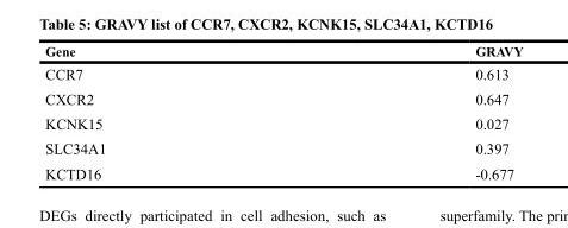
<table><thead><tr><td>Gene</td><td>GrAVY</td></tr></thead><tbody><tr><td>CCR7</td><td>0.613</td></tr><tr><td>CXCR2</td><td>0.647</td></tr><tr><td>KCNK15</td><td>0.027</td></tr><tr><td>SLC34A1</td><td>0.397</td></tr><tr><td>KCTD16</td><td>-0.677</td></tr></tbody></table>